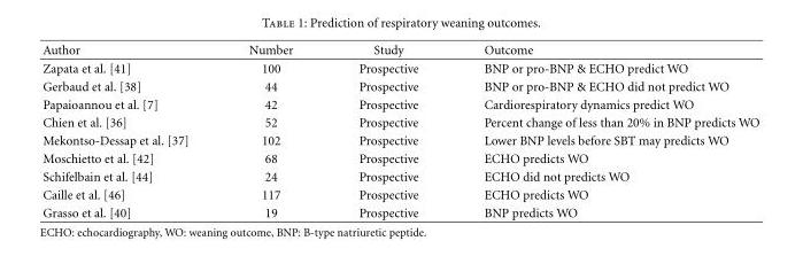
<table><thead><tr><td>Author</td><td>Number</td><td>Study</td><td>Outcome</td></tr></thead><tbody><tr><td>Zapata et al. [41]</td><td>100</td><td>Prospective</td><td>BNP or pro-BNP &amp; ECHO predict WO</td></tr><tr><td>Gerbaud et al. [38]</td><td>44</td><td>Prospective</td><td>BNP or pro-BNP &amp; ECHO did not predict WO</td></tr><tr><td>Papaioannou et al. [7]</td><td>42</td><td>Prospective</td><td>Cardiorespiratory dynamics predict WO</td></tr><tr><td>Chien et al. [36]</td><td>52</td><td>Prospective</td><td>Percent change of less than 20% in BNP predicts WO</td></tr><tr><td>Mekontso-Dessap et al. [37]</td><td>102</td><td>Prospective</td><td>Lower BNP levels before SBT may predicts WO</td></tr><tr><td>Moschietto et al. [42]</td><td>68</td><td>Prospective</td><td>ECHO predicts WO</td></tr><tr><td>Schifelbain et al. [44]</td><td>24</td><td>Prospective</td><td>ECHO did not predicts WO</td></tr><tr><td>Caille et al. [46]</td><td>117</td><td>Prospective</td><td>ECHO predicts WO</td></tr><tr><td>Grasso et al. [40]</td><td>19</td><td>Prospective</td><td>BNP predicts WO</td></tr></tbody></table>